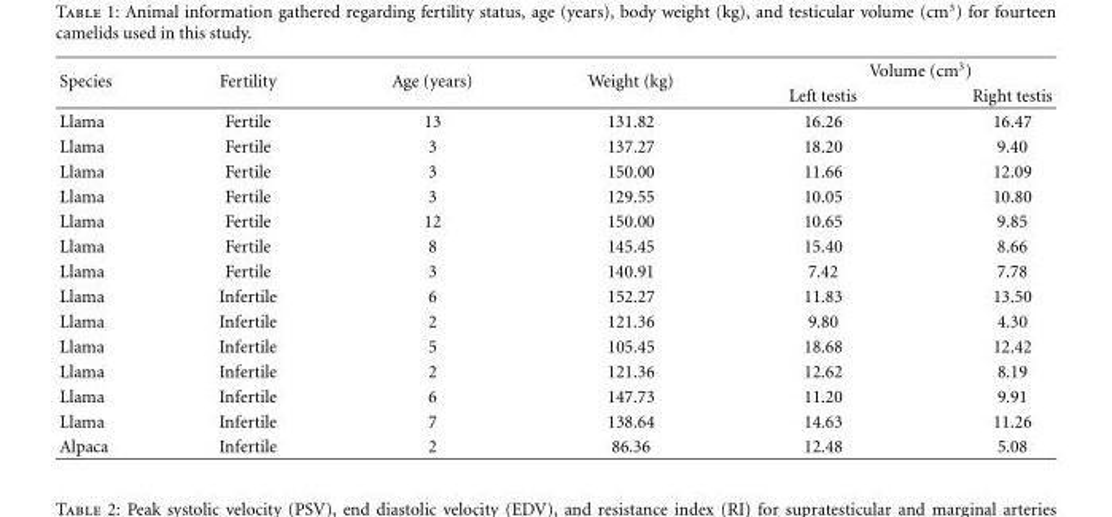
<table><thead><tr><td rowspan="2">Species</td><td rowspan="2">Fertility</td><td rowspan="2">Age (years)</td><td rowspan="2">Weight (kg)</td><td colspan="2">Volume (cm<sup>3</sup>)</td></tr><tr><td>Left testis</td><td>Right testis</td></tr></thead><tbody><tr><td>Llama</td><td>Fertile</td><td>13</td><td>131.82</td><td>16.26</td><td>16.47</td></tr><tr><td>Llama</td><td>Fertile</td><td>3</td><td>137.27</td><td>18.20</td><td>9.40</td></tr><tr><td>Llama</td><td>Fertile</td><td>3</td><td>150.00</td><td>11.66</td><td>12.09</td></tr><tr><td>Llama</td><td>Fertile</td><td>3</td><td>129.55</td><td>10.05</td><td>10.80</td></tr><tr><td>Llama</td><td>Fertile</td><td>12</td><td>150.00</td><td>10.65</td><td>9.85</td></tr><tr><td>Llama</td><td>Fertile</td><td>8</td><td>145.45</td><td>15.40</td><td>8.66</td></tr><tr><td>Llama</td><td>Fertile</td><td>3</td><td>140.91</td><td>7.42</td><td>7.78</td></tr><tr><td>Llama</td><td>Infertile</td><td>6</td><td>152.27</td><td>11.83</td><td>13.50</td></tr><tr><td>Llama</td><td>Infertile</td><td>2</td><td>121.36</td><td>9.80</td><td>4.30</td></tr><tr><td>Llama</td><td>Infertile</td><td>5</td><td>105.45</td><td>18.68</td><td>12.42</td></tr><tr><td>Llama</td><td>Infertile</td><td>2</td><td>121.36</td><td>12.62</td><td>8.19</td></tr><tr><td>Llama</td><td>Infertile</td><td>6</td><td>147.73</td><td>11.20</td><td>9.91</td></tr><tr><td>Llama</td><td>Infertile</td><td>7</td><td>138.64</td><td>14.63</td><td>11.26</td></tr><tr><td>Alpaca</td><td>Infertile</td><td>2</td><td>86.36</td><td>12.48</td><td>5.08</td></tr></tbody></table>